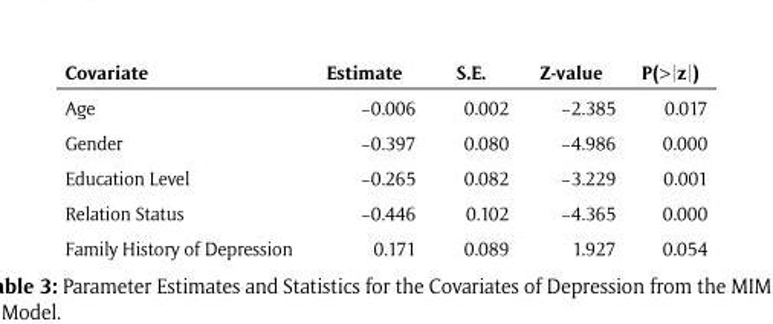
<table><thead><tr><td>Covariate</td><td>Estimate</td><td>S.E.</td><td>Z-value</td><td>P(&gt;|z|)</td></tr></thead><tbody><tr><td>Age</td><td>−0.006</td><td>0.002</td><td>−2.385</td><td>0.017</td></tr><tr><td>Gender</td><td>−0.397</td><td>0.080</td><td>−4.986</td><td>0.000</td></tr><tr><td>Education Level</td><td>−0.265</td><td>0.082</td><td>−3.229</td><td>0.001</td></tr><tr><td>Relation Status</td><td>−0.446</td><td>0.102</td><td>−4.365</td><td>0.000</td></tr><tr><td>Family History of Depression</td><td>0.171</td><td>0.089</td><td>1.927</td><td>0.054</td></tr></tbody></table>